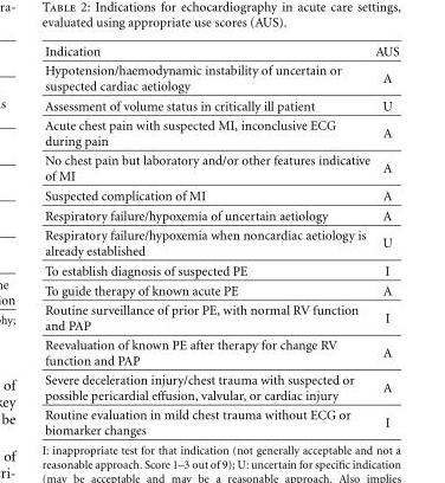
<table><thead><tr><td>Indication</td><td>AUS</td></tr></thead><tbody><tr><td>Hypotension/haemodynamic instability of uncertain or suspected cardiac aetiology</td><td>A</td></tr><tr><td>Assessment of volume status in critically ill patient</td><td>U</td></tr><tr><td>Acute chest pain with suspected MI, inconclusive ECG during pain</td><td>A</td></tr><tr><td>No chest pain but laboratory and/or other features indicative of MI</td><td>A</td></tr><tr><td>Suspected complication of MI</td><td>A</td></tr><tr><td>Respiratory failure/hypoxemia of uncertain aetiology</td><td>A</td></tr><tr><td>Respiratory failure/hypoxemia when noncardiac aetiology is already established</td><td>U</td></tr><tr><td>To establish diagnosis of suspected PE</td><td>I</td></tr><tr><td>To guide therapy of known acute PE</td><td>A</td></tr><tr><td>Routine surveillance of prior PE, with normal RV function and PAP</td><td>I</td></tr><tr><td>Reevaluation of known PE after therapy for change RV function and PAP</td><td>A</td></tr><tr><td>Severe deceleration injury/chest trauma with suspected or possible pericardial effusion, valvular, or cardiac injury</td><td>A</td></tr><tr><td>Routine evaluation in mild chest trauma without ECG or biomarker changes</td><td>I</td></tr></tbody></table>